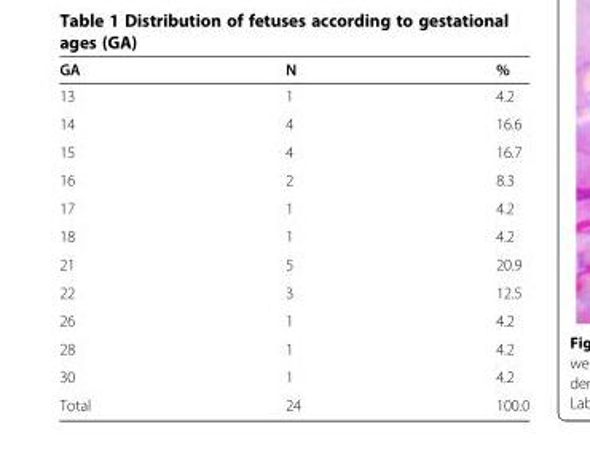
<table><thead><tr><td>GA</td><td>N</td><td>%</td></tr></thead><tbody><tr><td>13</td><td>1</td><td>4.2</td></tr><tr><td>14</td><td>4</td><td>16.6</td></tr><tr><td>15</td><td>4</td><td>16.7</td></tr><tr><td>16</td><td>2</td><td>8.3</td></tr><tr><td>17</td><td>1</td><td>4.2</td></tr><tr><td>18</td><td>1</td><td>4.2</td></tr><tr><td>21</td><td>5</td><td>20.9</td></tr><tr><td>22</td><td>3</td><td>12.5</td></tr><tr><td>26</td><td>1</td><td>4.2</td></tr><tr><td>28</td><td>1</td><td>4.2</td></tr><tr><td>30</td><td>1</td><td>4.2</td></tr><tr><td>Total</td><td>24</td><td>100.0</td></tr></tbody></table>